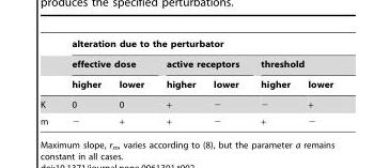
<table><thead><tr><td rowspan="3"></td><td colspan="6">alteration due to the perturbator</td></tr><tr><td colspan="2">effective dose</td><td colspan="2">active receptors</td><td colspan="2">threshold</td></tr><tr><td>higher</td><td>lower</td><td>higher</td><td>lower</td><td>higher</td><td>lower</td></tr></thead><tbody><tr><td>K</td><td>0</td><td>0</td><td>+</td><td>−</td><td>−</td><td>+</td></tr><tr><td>m</td><td>−</td><td>+</td><td>+</td><td>−</td><td>+</td><td>−</td></tr></tbody></table>